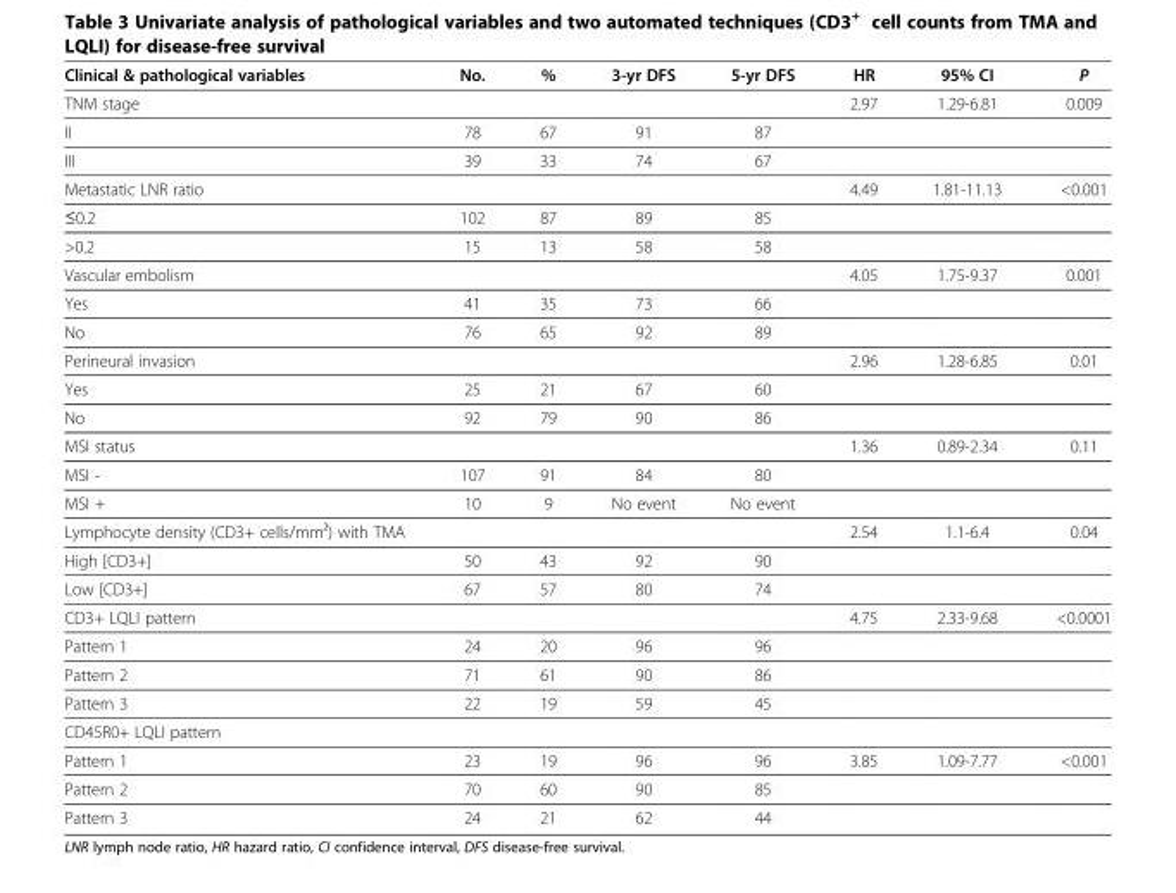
<table><thead><tr><td>Clinical &amp; pathological variables</td><td>No.</td><td>%</td><td>3-yr DFS</td><td>5-yr DFS</td><td>HR</td><td>95% CI</td><td>P</td></tr></thead><tbody><tr><td>TNM stage</td><td></td><td></td><td></td><td></td><td>2.97</td><td>1.29-6.81</td><td>0.009</td></tr><tr><td>II</td><td>78</td><td>67</td><td>91</td><td>87</td><td></td><td></td><td></td></tr><tr><td>III</td><td>39</td><td>33</td><td>74</td><td>67</td><td></td><td></td><td></td></tr><tr><td>Metastatic LNR ratio</td><td></td><td></td><td></td><td></td><td>4.49</td><td>1.81-11.13</td><td>&lt;0.001</td></tr><tr><td>≤0.2</td><td>102</td><td>87</td><td>89</td><td>85</td><td></td><td></td><td></td></tr><tr><td>&gt;0.2</td><td>15</td><td>13</td><td>58</td><td>58</td><td></td><td></td><td></td></tr><tr><td>Vascular embolism</td><td></td><td></td><td></td><td></td><td>4.05</td><td>1.75-9.37</td><td>0.001</td></tr><tr><td>Yes</td><td>41</td><td>35</td><td>73</td><td>66</td><td></td><td></td><td></td></tr><tr><td>No</td><td>76</td><td>65</td><td>92</td><td>89</td><td></td><td></td><td></td></tr><tr><td>Perineural invasion</td><td></td><td></td><td></td><td></td><td>2.96</td><td>1.28-6.85</td><td>0.01</td></tr><tr><td>Yes</td><td>25</td><td>21</td><td>67</td><td>60</td><td></td><td></td><td></td></tr><tr><td>No</td><td>92</td><td>79</td><td>90</td><td>86</td><td></td><td></td><td></td></tr><tr><td>MSI status</td><td></td><td></td><td></td><td></td><td>1.36</td><td>0.89-2.34</td><td>0.11</td></tr><tr><td>MSI -</td><td>107</td><td>91</td><td>84</td><td>80</td><td></td><td></td><td></td></tr><tr><td>MSI +</td><td>10</td><td>9</td><td>No event</td><td>No event</td><td></td><td></td><td></td></tr><tr><td>Lymphocyte density (CD3+ cells/mm²) with TMA</td><td></td><td></td><td></td><td></td><td>2.54</td><td>1.1-6.4</td><td>0.04</td></tr><tr><td>High [CD3+]</td><td>50</td><td>43</td><td>92</td><td>90</td><td></td><td></td><td></td></tr><tr><td>Low [CD3+]</td><td>67</td><td>57</td><td>80</td><td>74</td><td></td><td></td><td></td></tr><tr><td>CD3+ LQLI pattern</td><td></td><td></td><td></td><td></td><td>4.75</td><td>2.33-9.68</td><td>&lt;0.0001</td></tr><tr><td>Pattern 1</td><td>24</td><td>20</td><td>96</td><td>96</td><td></td><td></td><td></td></tr><tr><td>Pattern 2</td><td>71</td><td>61</td><td>90</td><td>86</td><td></td><td></td><td></td></tr><tr><td>Pattern 3</td><td>22</td><td>19</td><td>59</td><td>45</td><td></td><td></td><td></td></tr><tr><td colspan="8">CD45R0+ LQLI pattern</td></tr><tr><td>Pattern 1</td><td>23</td><td>19</td><td>96</td><td>96</td><td>3.85</td><td>1.09-7.77</td><td>&lt;0.001</td></tr><tr><td>Pattern 2</td><td>70</td><td>60</td><td>90</td><td>85</td><td></td><td></td><td></td></tr><tr><td>Pattern 3</td><td>24</td><td>21</td><td>62</td><td>44</td><td></td><td></td><td></td></tr></tbody></table>